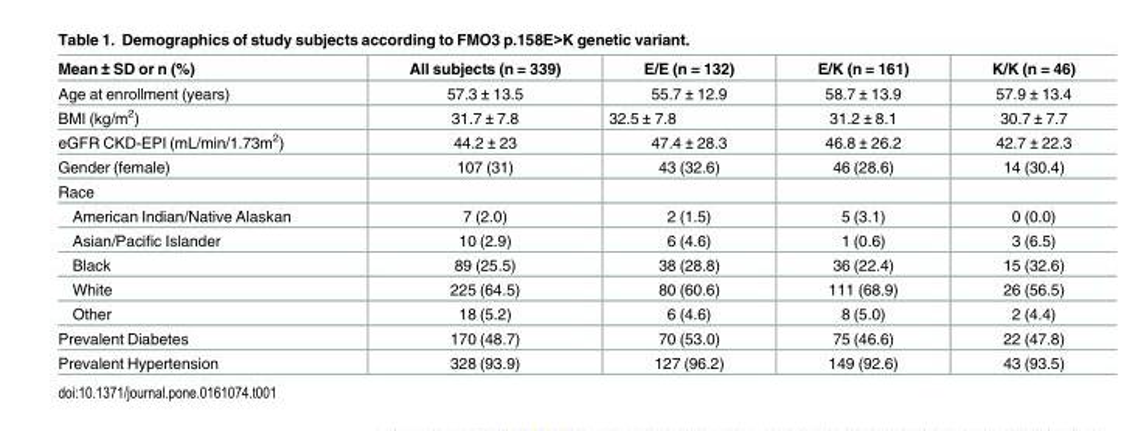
<table><thead><tr><td>Mean ± SD or n (%)</td><td>All subjects (n = 339)</td><td>E/E (n = 132)</td><td>E/K (n = 161)</td><td>K/K (n = 46)</td></tr></thead><tbody><tr><td>Age at enrollment (years)</td><td>57.3 ± 13.5</td><td>55.7 ± 12.9</td><td>58.7 ± 13.9</td><td>57.9 ± 13.4</td></tr><tr><td>BMI (kg/m<sup>2</sup>)</td><td>31.7 ± 7.8</td><td>32.5 ± 7.8</td><td>31.2 ± 8.1</td><td>30.7 ± 7.7</td></tr><tr><td>eGFR CKD-EPI (mL/min/1.73m<sup>2</sup>)</td><td>44.2 ± 23</td><td>47.4 ± 28.3</td><td>46.8 ± 26.2</td><td>42.7 ± 22.3</td></tr><tr><td>Gender (female)</td><td>107 (31)</td><td>43 (32.6)</td><td>46 (28.6)</td><td>14 (30.4)</td></tr><tr><td colspan="5">Race</td></tr><tr><td>American Indian/Native Alaskan</td><td>7 (2.0)</td><td>2 (1.5)</td><td>5 (3.1)</td><td>0 (0.0)</td></tr><tr><td>Asian/Pacific Islander</td><td>10 (2.9)</td><td>6 (4.6)</td><td>1 (0.6)</td><td>3 (6.5)</td></tr><tr><td>Black</td><td>89 (25.5)</td><td>38 (28.8)</td><td>36 (22.4)</td><td>15 (32.6)</td></tr><tr><td>White</td><td>225 (64.5)</td><td>80 (60.6)</td><td>111 (68.9)</td><td>26 (56.5)</td></tr><tr><td>Other</td><td>18 (5.2)</td><td>6 (4.6)</td><td>8 (5.0)</td><td>2 (4.4)</td></tr><tr><td>Prevalent Diabetes</td><td>170 (48.7)</td><td>70 (53.0)</td><td>75 (46.6)</td><td>22 (47.8)</td></tr><tr><td>Prevalent Hypertension</td><td>328 (93.9)</td><td>127 (96.2)</td><td>149 (92.6)</td><td>43 (93.5)</td></tr></tbody></table>